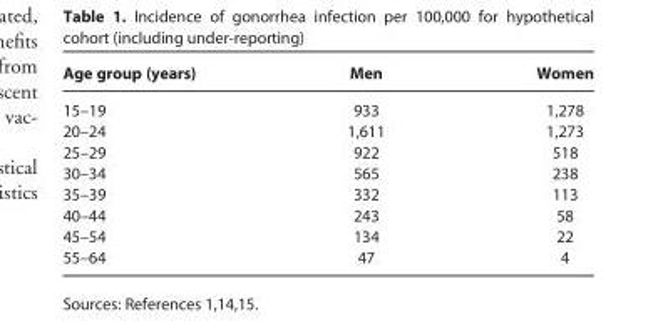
<table><thead><tr><td>Age group (years)</td><td>Men</td><td>Women</td></tr></thead><tbody><tr><td>15–19</td><td>933</td><td>1,278</td></tr><tr><td>20–24</td><td>1,611</td><td>1,273</td></tr><tr><td>25–29</td><td>922</td><td>518</td></tr><tr><td>30–34</td><td>565</td><td>238</td></tr><tr><td>35–39</td><td>332</td><td>113</td></tr><tr><td>40–44</td><td>243</td><td>58</td></tr><tr><td>45–54</td><td>134</td><td>22</td></tr><tr><td>55–64</td><td>47</td><td>4</td></tr></tbody></table>